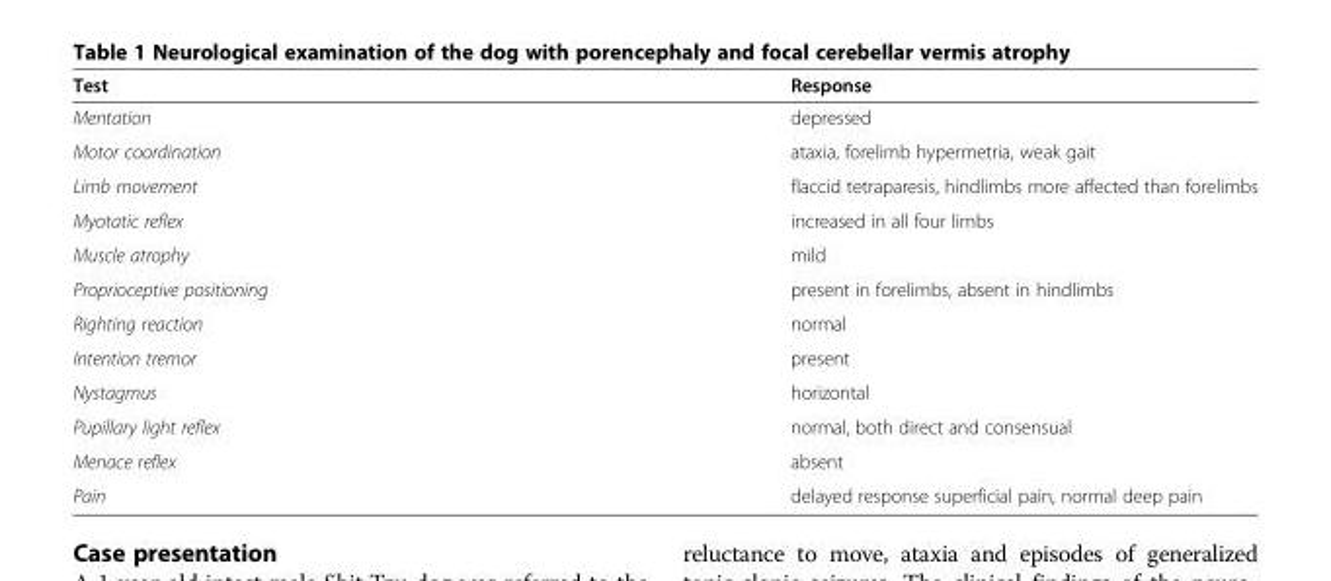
<table><thead><tr><td>Test</td><td>Response</td></tr></thead><tbody><tr><td>Mentation</td><td>depressed</td></tr><tr><td>Motor coordination</td><td>ataxia, forelimb hypermetria, weak gait</td></tr><tr><td>Limb movement</td><td>flaccid tetraparesis, hindlimbs more affected than forelimbs</td></tr><tr><td>Myotatic reflex</td><td>increased in all four limbs</td></tr><tr><td>Muscle atrophy</td><td>mild</td></tr><tr><td>Proprioceptive positioning</td><td>present in forelimbs, absent in hindlimbs</td></tr><tr><td>Righting reaction</td><td>normal</td></tr><tr><td>Intention tremor</td><td>present</td></tr><tr><td>Nystagmus</td><td>horizontal</td></tr><tr><td>Pupillary light reflex</td><td>normal, both direct and consensual</td></tr><tr><td>Menace reflex</td><td>absent</td></tr><tr><td>Pain</td><td>delayed response superficial pain, normal deep pain</td></tr></tbody></table>